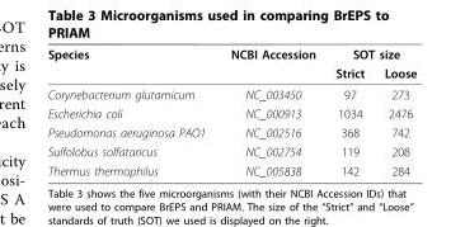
<table><thead><tr><td rowspan="2">Species</td><td rowspan="2">NCBI Accession</td><td colspan="2">SOT size</td></tr><tr><td>Strict</td><td>Loose</td></tr></thead><tbody><tr><td>Corynebacterium glutamicum</td><td>NC_003450</td><td>97</td><td>273</td></tr><tr><td>Escherichia coli</td><td>NC_000913</td><td>1034</td><td>2476</td></tr><tr><td>Pseudomonas aeruginosa PAO1</td><td>NC_002516</td><td>368</td><td>742</td></tr><tr><td>Sulfolobus solfataricus</td><td>NC_002754</td><td>119</td><td>208</td></tr><tr><td>Thermus thermophilus</td><td>NC_005838</td><td>142</td><td>284</td></tr></tbody></table>